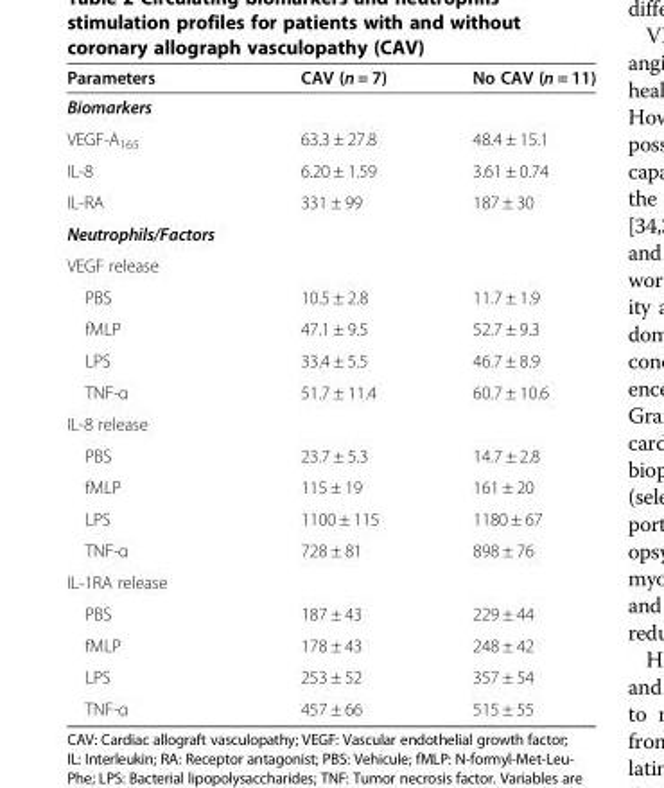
<table><thead><tr><td>Parameters</td><td>CAV (n = 7)</td><td>No CAV (n = 11)</td></tr></thead><tbody><tr><td colspan="3">Biomarkers</td></tr><tr><td>VEGF-A<sub>165</sub></td><td>63.3 ± 27.8</td><td>48.4 ± 15.1</td></tr><tr><td>IL-8</td><td>6.20 ± 1.59</td><td>3.61 ± 0.74</td></tr><tr><td>IL-RA</td><td>331 ± 99</td><td>187 ± 30</td></tr><tr><td colspan="3">Neutrophils/Factors</td></tr><tr><td colspan="3">VEGF release</td></tr><tr><td>PBS</td><td>10.5 ± 2.8</td><td>11.7 ± 1.9</td></tr><tr><td>fMLP</td><td>47.1 ± 9.5</td><td>52.7 ± 9.3</td></tr><tr><td>LPS</td><td>33.4 ± 5.5</td><td>46.7 ± 8.9</td></tr><tr><td>TNF-α</td><td>51.7 ± 11.4</td><td>60.7 ± 10.6</td></tr><tr><td colspan="3">IL-8 release</td></tr><tr><td>PBS</td><td>23.7 ± 5.3</td><td>14.7 ± 2.8</td></tr><tr><td>fMLP</td><td>115 ± 19</td><td>161 ± 20</td></tr><tr><td>LPS</td><td>1100 ± 115</td><td>1180 ± 67</td></tr><tr><td>TNF-α</td><td>728 ± 81</td><td>898 ± 76</td></tr><tr><td colspan="3">IL-1RA release</td></tr><tr><td>PBS</td><td>187 ± 43</td><td>229 ± 44</td></tr><tr><td>fMLP</td><td>178 ± 43</td><td>248 ± 42</td></tr><tr><td>LPS</td><td>253 ± 52</td><td>357 ± 54</td></tr><tr><td>TNF-α</td><td>457 ± 66</td><td>515 ± 55</td></tr></tbody></table>